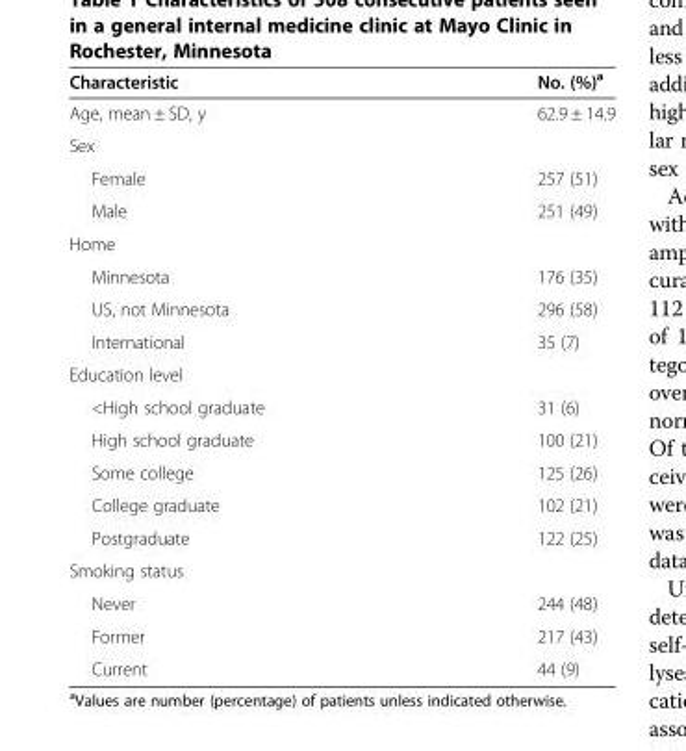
<table><thead><tr><td>Characteristic</td><td>No. (%)<sup>a</sup></td></tr></thead><tbody><tr><td>Age, mean ± SD, y</td><td>62.9 ± 14.9</td></tr><tr><td colspan="2">Sex</td></tr><tr><td>Female</td><td>257 (51)</td></tr><tr><td>Male</td><td>251 (49)</td></tr><tr><td colspan="2">Home</td></tr><tr><td>Minnesota</td><td>176 (35)</td></tr><tr><td>US, not Minnesota</td><td>296 (58)</td></tr><tr><td>International</td><td>35 (7)</td></tr><tr><td colspan="2">Education level</td></tr><tr><td>&lt;High school graduate</td><td>31 (6)</td></tr><tr><td>High school graduate</td><td>100 (21)</td></tr><tr><td>Some college</td><td>125 (26)</td></tr><tr><td>College graduate</td><td>102 (21)</td></tr><tr><td>Postgraduate</td><td>122 (25)</td></tr><tr><td colspan="2">Smoking status</td></tr><tr><td>Never</td><td>244 (48)</td></tr><tr><td>Former</td><td>217 (43)</td></tr><tr><td>Current</td><td>44 (9)</td></tr></tbody></table>